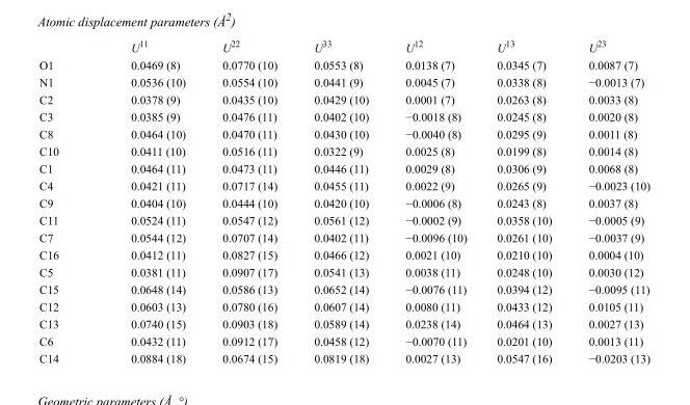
<table><thead><tr><td></td><td>U<sup>11</sup></td><td>U<sup>22</sup></td><td>U<sup>33</sup></td><td>U<sup>12</sup></td><td>U<sup>13</sup></td><td>U<sup>23</sup></td></tr></thead><tbody><tr><td>O1</td><td>0.0469 (8)</td><td>0.0770 (10)</td><td>0.0553 (8)</td><td>0.0138 (7)</td><td>0.0345 (7)</td><td>0.0087 (7)</td></tr><tr><td>N1</td><td>0.0536 (10)</td><td>0.0554 (10)</td><td>0.0441 (9)</td><td>0.0045 (7)</td><td>0.0338 (8)</td><td>−0.0013 (7)</td></tr><tr><td>C2</td><td>0.0378 (9)</td><td>0.0435 (10)</td><td>0.0429 (10)</td><td>0.0001 (7)</td><td>0.0263 (8)</td><td>0.0033 (8)</td></tr><tr><td>C3</td><td>0.0385 (9)</td><td>0.0476 (11)</td><td>0.0402 (10)</td><td>−0.0018 (8)</td><td>0.0245 (8)</td><td>0.0020 (8)</td></tr><tr><td>C8</td><td>0.0464 (10)</td><td>0.0470 (11)</td><td>0.0430 (10)</td><td>−0.0040 (8)</td><td>0.0295 (9)</td><td>0.0011 (8)</td></tr><tr><td>C10</td><td>0.0411 (10)</td><td>0.0516 (11)</td><td>0.0322 (9)</td><td>0.0025 (8)</td><td>0.0199 (8)</td><td>0.0014 (8)</td></tr><tr><td>C1</td><td>0.0464 (11)</td><td>0.0473 (11)</td><td>0.0446 (11)</td><td>0.0029 (8)</td><td>0.0306 (9)</td><td>0.0068 (8)</td></tr><tr><td>C4</td><td>0.0421 (11)</td><td>0.0717 (14)</td><td>0.0455 (11)</td><td>0.0022 (9)</td><td>0.0265 (9)</td><td>−0.0023 (10)</td></tr><tr><td>C9</td><td>0.0404 (10)</td><td>0.0444 (10)</td><td>0.0420 (10)</td><td>−0.0006 (8)</td><td>0.0243 (8)</td><td>0.0037 (8)</td></tr><tr><td>C11</td><td>0.0524 (11)</td><td>0.0547 (12)</td><td>0.0561 (12)</td><td>−0.0002 (9)</td><td>0.0358 (10)</td><td>−0.0005 (9)</td></tr><tr><td>C7</td><td>0.0544 (12)</td><td>0.0707 (14)</td><td>0.0402 (11)</td><td>−0.0096 (10)</td><td>0.0261 (10)</td><td>−0.0037 (9)</td></tr><tr><td>C16</td><td>0.0412 (11)</td><td>0.0827 (15)</td><td>0.0466 (12)</td><td>0.0021 (10)</td><td>0.0210 (10)</td><td>0.0004 (10)</td></tr><tr><td>C5</td><td>0.0381 (11)</td><td>0.0907 (17)</td><td>0.0541 (13)</td><td>0.0038 (11)</td><td>0.0248 (10)</td><td>0.0030 (12)</td></tr><tr><td>C15</td><td>0.0648 (14)</td><td>0.0586 (13)</td><td>0.0652 (14)</td><td>−0.0076 (11)</td><td>0.0394 (12)</td><td>−0.0095 (11)</td></tr><tr><td>C12</td><td>0.0603 (13)</td><td>0.0780 (16)</td><td>0.0607 (14)</td><td>0.0080 (11)</td><td>0.0433 (12)</td><td>0.0105 (11)</td></tr><tr><td>C13</td><td>0.0740 (15)</td><td>0.0903 (18)</td><td>0.0589 (14)</td><td>0.0238 (14)</td><td>0.0464 (13)</td><td>0.0027 (13)</td></tr><tr><td>C6</td><td>0.0432 (11)</td><td>0.0912 (17)</td><td>0.0458 (12)</td><td>−0.0070 (11)</td><td>0.0201 (10)</td><td>0.0013 (11)</td></tr><tr><td>C14</td><td>0.0884 (18)</td><td>0.0674 (15)</td><td>0.0819 (18)</td><td>0.0027 (13)</td><td>0.0547 (16)</td><td>−0.0203 (13)</td></tr></tbody></table>